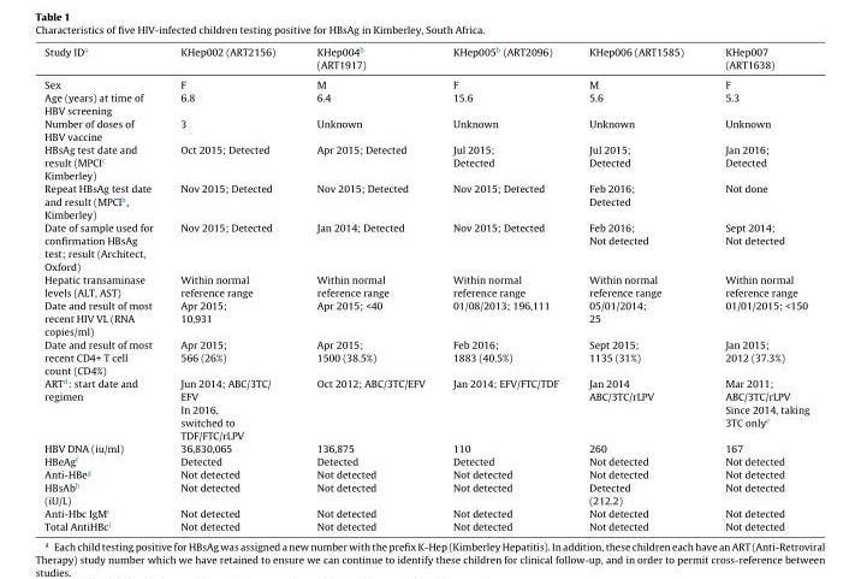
<table><thead><tr><td>Study ID<sup>a</sup></td><td>KHep002 (ART2156)</td><td>KHep004<sup>b</sup> (ART1917)</td><td>KHep005<sup>b</sup> (ART2096)</td><td>KHep006 (ART1585)</td><td>KHep007 (ART1638)</td></tr></thead><tbody><tr><td>Sex</td><td>F</td><td>M</td><td>F</td><td>M</td><td>F</td></tr><tr><td>Age (years) at time of HBV screening</td><td>6.8</td><td>6.4</td><td>15.6</td><td>5.6</td><td>5.3</td></tr><tr><td>Number of doses of HBV vaccine</td><td>3</td><td>Unknown</td><td>Unknown</td><td>Unknown</td><td>Unknown</td></tr><tr><td>HBsAg test date and result (MPCI<sup>c</sup> Kimberley)</td><td>Oct 2015; Detected</td><td>Apr 2015; Detected</td><td>Jul 2015; Detected</td><td>Jul 2015; Detected</td><td>Jan 2016; Detected</td></tr><tr><td>Repeat HBsAg test date and result (MPCI<sup>b</sup>, Kimberley)</td><td>Nov 2015; Detected</td><td>Nov 2015; Detected</td><td>Nov 2015; Detected</td><td>Feb 2016; Detected</td><td>Not done</td></tr><tr><td>Date of sample used for confirmation HBsAg test; result (Architect, Oxford)</td><td>Nov 2015; Detected</td><td>Jan 2014; Detected</td><td>Nov 2015; Detected</td><td>Feb 2016; Not detected</td><td>Sept 2014; Not detected</td></tr><tr><td>Hepatic transaminase levels (ALT, AST)</td><td>Within normal reference range</td><td>Within normal reference range</td><td>Within normal reference range</td><td>Within normal reference range</td><td>Within normal reference range</td></tr><tr><td>Date and result of most recent HIV VL (RNA copies/ml)</td><td>Apr 2015; 10,931</td><td>Apr 2015; &lt;40</td><td>01/08/2013; 196,111</td><td>05/01/2014; 25</td><td>01/01/2015; &lt;150</td></tr><tr><td>Date and result of most recent CD4+ T cell count (CD4%)</td><td>Apr 2015; 566 (26%)</td><td>Apr 2015; 1500 (38.5%)</td><td>Feb 2016; 1883 (40.5%)</td><td>Sept 2015; 1135 (31%)</td><td>Jan 2015; 2012 (37.3%)</td></tr><tr><td>ART<sup>d</sup>: start date and regimen</td><td>Jun 2014; ABC/3TC/ EFV In 2016, switched to TDF/FTC/rLPV</td><td>Oct 2012; ABC/3TC/EFV</td><td>Jan 2014; EFV/FTC/TDF</td><td>Jan 2014 ABC/3TC/rLPV</td><td>Mar 2011; ABC/3TC/rLPV Since 2014, taking 3TC only<sup>e</sup></td></tr><tr><td>HBV DNA (iu/ml)</td><td>36,830,065</td><td>136,875</td><td>110</td><td>260</td><td>167</td></tr><tr><td>HBeAg<sup>f</sup></td><td>Detected</td><td>Detected</td><td>Detected</td><td>Not detected</td><td>Not detected</td></tr><tr><td>Anti-HBe<sup>g</sup></td><td>Not detected</td><td>Not detected</td><td>Not detected</td><td>Not detected</td><td>Not detected</td></tr><tr><td>HBsAb<sup>h</sup> (iU/L)</td><td>Not detected</td><td>Not detected</td><td>Not detected</td><td>Detected (212.2)</td><td>Not detected</td></tr><tr><td>Anti-Hbc IgM<sup>i</sup></td><td>Not detected</td><td>Not detected</td><td>Not detected</td><td>Not detected</td><td>Not detected</td></tr><tr><td>Total AntiHBc<sup>j</sup></td><td>Not detected</td><td>Not detected</td><td>Not detected</td><td>Not detected</td><td>Not detected</td></tr></tbody></table>